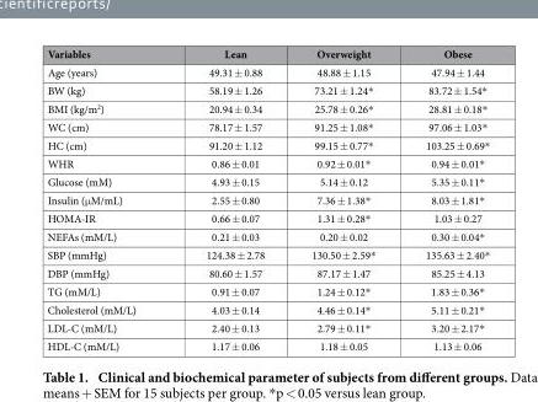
<table><thead><tr><td>Variables</td><td>Lean</td><td>Overweight</td><td>Obese</td></tr></thead><tbody><tr><td>Age (years)</td><td>49.31 ± 0.88</td><td>48.88 ± 1.15</td><td>47.94 ± 1.44</td></tr><tr><td>BW (kg)</td><td>58.19 ± 1.26</td><td>73.21 ± 1.24*</td><td>83.72 ± 1.54*</td></tr><tr><td>BMI (kg/m<sup>2</sup>)</td><td>20.94 ± 0.34</td><td>25.78 ± 0.26*</td><td>28.81 ± 0.18*</td></tr><tr><td>WC (cm)</td><td>78.17 ± 1.57</td><td>91.25 ± 1.08*</td><td>97.06 ± 1.03*</td></tr><tr><td>HC (cm)</td><td>91.20 ± 1.12</td><td>99.15 ± 0.77*</td><td>103.25 ± 0.69*</td></tr><tr><td>WHR</td><td>0.86 ± 0.01</td><td>0.92 ± 0.01*</td><td>0.94 ± 0.01*</td></tr><tr><td>Glucose (mM)</td><td>4.93 ± 0.15</td><td>5.14 ± 0.12</td><td>5.35 ± 0.11*</td></tr><tr><td>Insulin (μ M/mL)</td><td>2.55 ± 0.80</td><td>7.36 ± 1.38*</td><td>8.03 ± 1.81*</td></tr><tr><td>HOMA-IR</td><td>0.66 ± 0.07</td><td>1.31 ± 0.28*</td><td>1.03 ± 0.27</td></tr><tr><td>NEFAs (mM/L)</td><td>0.21 ± 0.03</td><td>0.20 ± 0.02</td><td>0.30 ± 0.04*</td></tr><tr><td>SBP (mmHg)</td><td>124.38 ± 2.78</td><td>130.50 ± 2.59*</td><td>135.63 ± 2.40*</td></tr><tr><td>DBP (mmHg)</td><td>80.60 ± 1.57</td><td>87.17 ± 1.47</td><td>85.25 ± 4.13</td></tr><tr><td>TG (mM/L)</td><td>0.91 ± 0.07</td><td>1.24 ± 0.12*</td><td>1.83 ± 0.36*</td></tr><tr><td>Cholesterol (mM/L)</td><td>4.03 ± 0.14</td><td>4.46 ± 0.14*</td><td>5.11 ± 0.21*</td></tr><tr><td>LDL-C (mM/L)</td><td>2.40 ± 0.13</td><td>2.79 ± 0.11*</td><td>3.20 ± 2.17*</td></tr><tr><td>HDL-C (mM/L)</td><td>1.17 ± 0.06</td><td>1.18 ± 0.05</td><td>1.13 ± 0.06</td></tr></tbody></table>